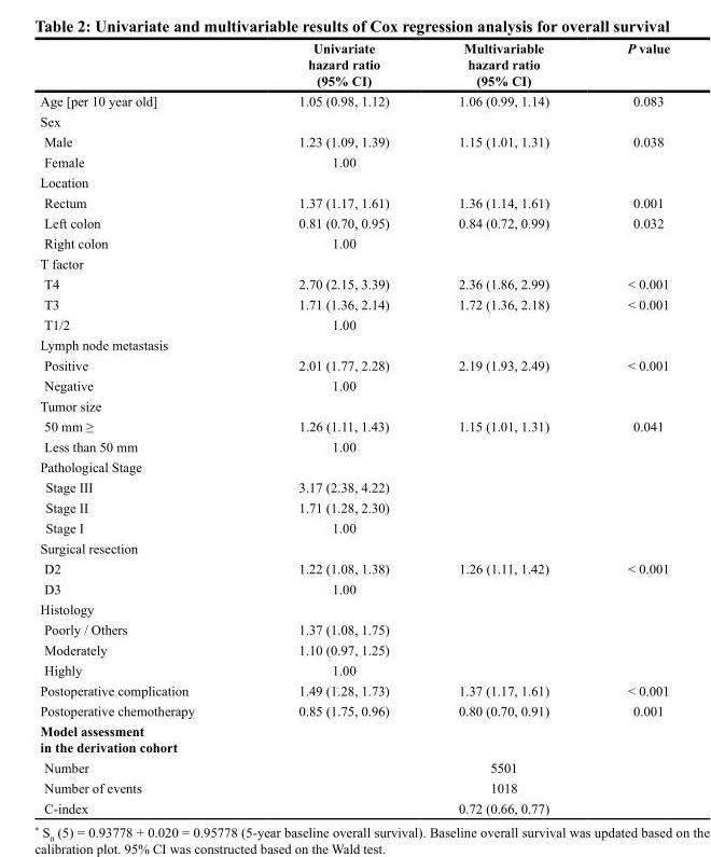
<table><thead><tr><td></td><td>Univariate hazard ratio (95% CI)</td><td>Multivariable hazard ratio (95% CI)</td><td>P value</td></tr></thead><tbody><tr><td>Age [per 10 year old]</td><td>1.05 (0.98, 1.12)</td><td>1.06 (0.99, 1.14)</td><td>0.083</td></tr><tr><td colspan="4">Sex</td></tr><tr><td>Male</td><td>1.23 (1.09, 1.39)</td><td>1.15 (1.01, 1.31)</td><td>0.038</td></tr><tr><td>Female</td><td>1.00</td><td></td><td></td></tr><tr><td colspan="4">Location</td></tr><tr><td>Rectum</td><td>1.37 (1.17, 1.61)</td><td>1.36 (1.14, 1.61)</td><td>0.001</td></tr><tr><td>Left colon</td><td>0.81 (0.70, 0.95)</td><td>0.84 (0.72, 0.99)</td><td>0.032</td></tr><tr><td>Right colon</td><td>1.00</td><td></td><td></td></tr><tr><td colspan="4">T factor</td></tr><tr><td>T4</td><td>2.70 (2.15, 3.39)</td><td>2.36 (1.86, 2.99)</td><td>&lt; 0.001</td></tr><tr><td>T3</td><td>1.71 (1.36, 2.14)</td><td>1.72 (1.36, 2.18)</td><td>&lt; 0.001</td></tr><tr><td>T1/2</td><td>1.00</td><td></td><td></td></tr><tr><td colspan="4">Lymph node metastasis</td></tr><tr><td>Positive</td><td>2.01 (1.77, 2.28)</td><td>2.19 (1.93, 2.49)</td><td>&lt; 0.001</td></tr><tr><td>Negative</td><td>1.00</td><td></td><td></td></tr><tr><td colspan="4">Tumor size</td></tr><tr><td>50 mm ≥</td><td>1.26 (1.11, 1.43)</td><td>1.15 (1.01, 1.31)</td><td>0.041</td></tr><tr><td>Less than 50 mm</td><td>1.00</td><td></td><td></td></tr><tr><td colspan="4">Pathological Stage</td></tr><tr><td>Stage III</td><td>3.17 (2.38, 4.22)</td><td></td><td></td></tr><tr><td>Stage II</td><td>1.71 (1.28, 2.30)</td><td></td><td></td></tr><tr><td>Stage I</td><td>1.00</td><td></td><td></td></tr><tr><td colspan="4">Surgical resection</td></tr><tr><td>D2</td><td>1.22 (1.08, 1.38)</td><td>1.26 (1.11, 1.42)</td><td>&lt; 0.001</td></tr><tr><td>D3</td><td>1.00</td><td></td><td></td></tr><tr><td colspan="4">Histology</td></tr><tr><td>Poorly / Others</td><td>1.37 (1.08, 1.75)</td><td></td><td></td></tr><tr><td>Moderately</td><td>1.10 (0.97, 1.25)</td><td></td><td></td></tr><tr><td>Highly</td><td>1.00</td><td></td><td></td></tr><tr><td>Postoperative complication</td><td>1.49 (1.28, 1.73)</td><td>1.37 (1.17, 1.61)</td><td>&lt; 0.001</td></tr><tr><td>Postoperative chemotherapy</td><td>0.85 (1.75, 0.96)</td><td>0.80 (0.70, 0.91)</td><td>0.001</td></tr><tr><td colspan="4">Model assessment in the derivation cohort</td></tr><tr><td>Number</td><td></td><td>5501</td><td></td></tr><tr><td>Number of events</td><td></td><td>1018</td><td></td></tr><tr><td>C-index</td><td></td><td>0.72 (0.66, 0.77)</td><td></td></tr></tbody></table>